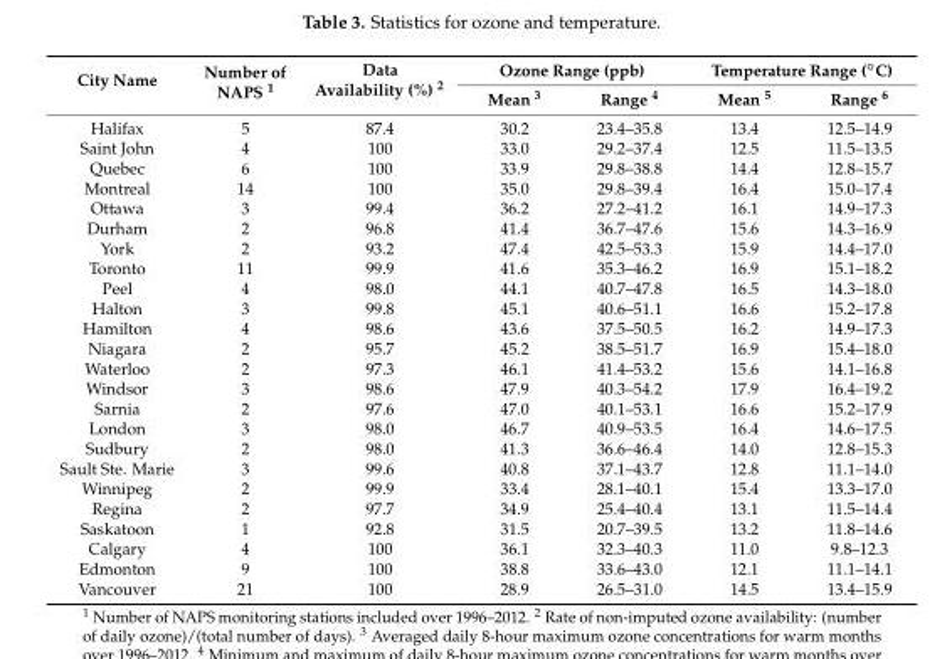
<table><thead><tr><td rowspan="2">City Name</td><td rowspan="2">Number of NAPS <sup>1</sup></td><td rowspan="2">Data Availability (%) <sup>2</sup></td><td colspan="2">Ozone Range (ppb)</td><td colspan="2">Temperature Range (◦C)</td></tr><tr><td>Mean <sup>3</sup></td><td>Range <sup>4</sup></td><td>Mean <sup>5</sup></td><td>Range <sup>6</sup></td></tr></thead><tbody><tr><td>Halifax</td><td>5</td><td>87.4</td><td>30.2</td><td>23.4–35.8</td><td>13.4</td><td>12.5–14.9</td></tr><tr><td>Saint John</td><td>4</td><td>100</td><td>33.0</td><td>29.2–37.4</td><td>12.5</td><td>11.5–13.5</td></tr><tr><td>Quebec</td><td>6</td><td>100</td><td>33.9</td><td>29.8–38.8</td><td>14.4</td><td>12.8–15.7</td></tr><tr><td>Montreal</td><td>14</td><td>100</td><td>35.0</td><td>29.8–39.4</td><td>16.4</td><td>15.0–17.4</td></tr><tr><td>Ottawa</td><td>3</td><td>99.4</td><td>36.2</td><td>27.2–41.2</td><td>16.1</td><td>14.9–17.3</td></tr><tr><td>Durham</td><td>2</td><td>96.8</td><td>41.4</td><td>36.7–47.6</td><td>15.6</td><td>14.3–16.9</td></tr><tr><td>York</td><td>2</td><td>93.2</td><td>47.4</td><td>42.5–53.3</td><td>15.9</td><td>14.4–17.0</td></tr><tr><td>Toronto</td><td>11</td><td>99.9</td><td>41.6</td><td>35.3–46.2</td><td>16.9</td><td>15.1–18.2</td></tr><tr><td>Peel</td><td>4</td><td>98.0</td><td>44.1</td><td>40.7–47.8</td><td>16.5</td><td>14.3–18.0</td></tr><tr><td>Halton</td><td>3</td><td>99.8</td><td>45.1</td><td>40.6–51.1</td><td>16.6</td><td>15.2–17.8</td></tr><tr><td>Hamilton</td><td>4</td><td>98.6</td><td>43.6</td><td>37.5–50.5</td><td>16.2</td><td>14.9–17.3</td></tr><tr><td>Niagara</td><td>2</td><td>95.7</td><td>45.2</td><td>38.5–51.7</td><td>16.9</td><td>15.4–18.0</td></tr><tr><td>Waterloo</td><td>2</td><td>97.3</td><td>46.1</td><td>41.4–53.2</td><td>15.6</td><td>14.1–16.8</td></tr><tr><td>Windsor</td><td>3</td><td>98.6</td><td>47.9</td><td>40.3–54.2</td><td>17.9</td><td>16.4–19.2</td></tr><tr><td>Sarnia</td><td>2</td><td>97.6</td><td>47.0</td><td>40.1–53.1</td><td>16.6</td><td>15.2–17.9</td></tr><tr><td>London</td><td>3</td><td>98.0</td><td>46.7</td><td>40.9–53.5</td><td>16.4</td><td>14.6–17.5</td></tr><tr><td>Sudbury</td><td>2</td><td>98.0</td><td>41.3</td><td>36.6–46.4</td><td>14.0</td><td>12.8–15.3</td></tr><tr><td>Sault Ste. Marie</td><td>3</td><td>99.6</td><td>40.8</td><td>37.1–43.7</td><td>12.8</td><td>11.1–14.0</td></tr><tr><td>Winnipeg</td><td>2</td><td>99.9</td><td>33.4</td><td>28.1–40.1</td><td>15.4</td><td>13.3–17.0</td></tr><tr><td>Regina</td><td>2</td><td>97.7</td><td>34.9</td><td>25.4–40.4</td><td>13.1</td><td>11.5–14.4</td></tr><tr><td>Saskatoon</td><td>1</td><td>92.8</td><td>31.5</td><td>20.7–39.5</td><td>13.2</td><td>11.8–14.6</td></tr><tr><td>Calgary</td><td>4</td><td>100</td><td>36.1</td><td>32.3–40.3</td><td>11.0</td><td>9.8–12.3</td></tr><tr><td>Edmonton</td><td>9</td><td>100</td><td>38.8</td><td>33.6–43.0</td><td>12.1</td><td>11.1–14.1</td></tr><tr><td>Vancouver</td><td>21</td><td>100</td><td>28.9</td><td>26.5–31.0</td><td>14.5</td><td>13.4–15.9</td></tr></tbody></table>